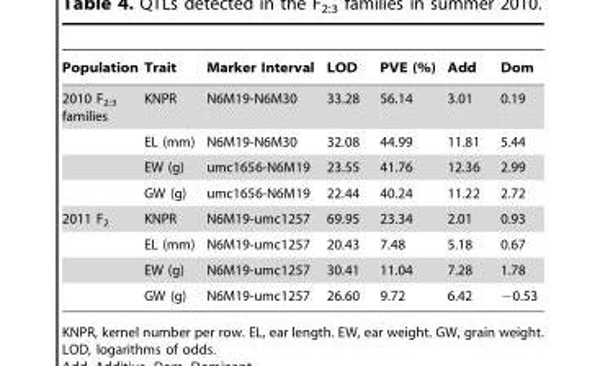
<table><thead><tr><td>Population</td><td>Trait</td><td>Marker Interval</td><td>LOD</td><td>PVE (%)</td><td>Add</td><td>Dom</td></tr></thead><tbody><tr><td rowspan="4">2010 F2:3 families</td><td>KNPR</td><td>N6M19-N6M30</td><td>33.28</td><td>56.14</td><td>3.01</td><td>0.19</td></tr><tr><td>EL (mm)</td><td>N6M19-N6M30</td><td>32.08</td><td>44.99</td><td>11.81</td><td>5.44</td></tr><tr><td>EW (g)</td><td>umc1656-N6M19</td><td>23.55</td><td>41.76</td><td>12.36</td><td>2.99</td></tr><tr><td>GW (g)</td><td>umc1656-N6M19</td><td>22.44</td><td>40.24</td><td>11.22</td><td>2.72</td></tr><tr><td rowspan="4">2011 F<sub>2</sub></td><td>KNPR</td><td>N6M19-umc1257</td><td>69.95</td><td>23.34</td><td>2.01</td><td>0.93</td></tr><tr><td>EL (mm)</td><td>N6M19-umc1257</td><td>20.43</td><td>7.48</td><td>5.18</td><td>0.67</td></tr><tr><td>EW (g)</td><td>N6M19-umc1257</td><td>30.41</td><td>11.04</td><td>7.28</td><td>1.78</td></tr><tr><td>GW (g)</td><td>N6M19-umc1257</td><td>26.60</td><td>9.72</td><td>6.42</td><td>−0.53</td></tr></tbody></table>